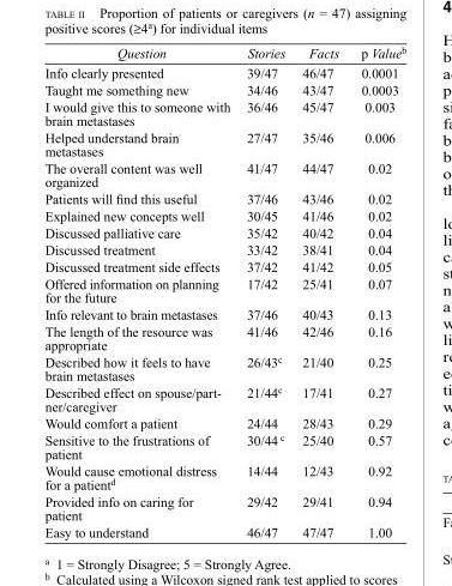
<table><thead><tr><td>Question</td><td>Stories</td><td>Facts</td><td>p Value<sup>b</sup></td></tr></thead><tbody><tr><td>Info clearly presented</td><td>39/47</td><td>46/47</td><td>0.0001</td></tr><tr><td>Taught me something new</td><td>34/46</td><td>43/47</td><td>0.0003</td></tr><tr><td>I would give this to someone with brain metastases</td><td>36/46</td><td>45/47</td><td>0.003</td></tr><tr><td>Helped understand brain metastases</td><td>27/47</td><td>35/46</td><td>0.006</td></tr><tr><td>The overall content was well organized</td><td>41/47</td><td>44/47</td><td>0.02</td></tr><tr><td>Patients will find this useful</td><td>37/46</td><td>43/46</td><td>0.02</td></tr><tr><td>Explained new concepts well</td><td>30/45</td><td>41/46</td><td>0.02</td></tr><tr><td>Discussed palliative care</td><td>35/42</td><td>40/42</td><td>0.04</td></tr><tr><td>Discussed treatment</td><td>33/42</td><td>38/41</td><td>0.04</td></tr><tr><td>Discussed treatment side effects</td><td>37/42</td><td>41/42</td><td>0.05</td></tr><tr><td>Offered information on planning for the future</td><td>17/42</td><td>25/41</td><td>0.07</td></tr><tr><td>Info relevant to brain metastases</td><td>37/46</td><td>40/43</td><td>0.13</td></tr><tr><td>The length of the resource was appropriate</td><td>41/46</td><td>42/46</td><td>0.16</td></tr><tr><td>Described how it feels to have brain metastases</td><td>26/43<sup>c</sup></td><td>21/40</td><td>0.25</td></tr><tr><td>Described effect on spouse/part- ner/caregiver</td><td>21/44<sup>c</sup></td><td>17/41</td><td>0.27</td></tr><tr><td>Would comfort a patient</td><td>24/44</td><td>28/43</td><td>0.29</td></tr><tr><td>Sensitive to the frustrations of patient</td><td>30/44 c</td><td>25/40</td><td>0.57</td></tr><tr><td>Would cause emotional distress for a patient<sup>d</sup></td><td>14/44</td><td>12/43</td><td>0.92</td></tr><tr><td>Provided info on caring for patient</td><td>29/42</td><td>29/41</td><td>0.94</td></tr><tr><td>Easy to understand</td><td>46/47</td><td>47/47</td><td>1.00</td></tr></tbody></table>